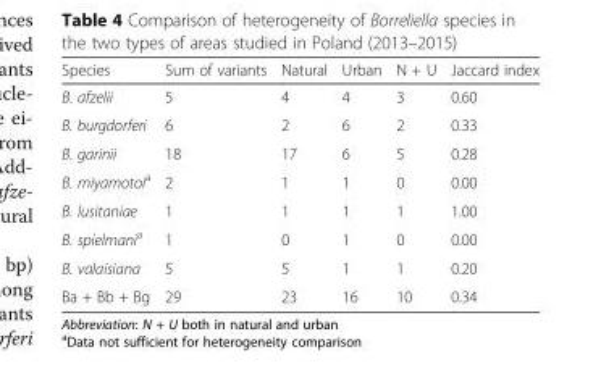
<table><thead><tr><td>Species</td><td>Sum of variants</td><td>Natural</td><td>Urban</td><td>N + U</td><td>Jaccard index</td></tr></thead><tbody><tr><td>B. afzelii</td><td>5</td><td>4</td><td>4</td><td>3</td><td>0.60</td></tr><tr><td>B. burgdorferi</td><td>6</td><td>2</td><td>6</td><td>2</td><td>0.33</td></tr><tr><td>B. garinii</td><td>18</td><td>17</td><td>6</td><td>5</td><td>0.28</td></tr><tr><td>B. miyamotoi<sup>a</sup></td><td>2</td><td>1</td><td>1</td><td>0</td><td>0.00</td></tr><tr><td>B. lusitaniae</td><td>1</td><td>1</td><td>1</td><td>1</td><td>1.00</td></tr><tr><td>B. spielmani<sup>a</sup></td><td>1</td><td>0</td><td>1</td><td>0</td><td>0.00</td></tr><tr><td>B. valaisiana</td><td>5</td><td>5</td><td>1</td><td>1</td><td>0.20</td></tr><tr><td>Ba + Bb + Bg</td><td>29</td><td>23</td><td>16</td><td>10</td><td>0.34</td></tr></tbody></table>